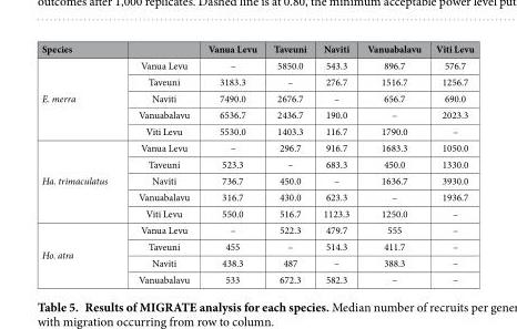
<table><thead><tr><td>Species</td><td></td><td>Vanua Levu</td><td>Taveuni</td><td>Naviti</td><td>Vanuabalavu</td><td>Viti Levu</td></tr></thead><tbody><tr><td rowspan="5">E. merra</td><td>Vanua Levu</td><td>–</td><td>5850.0</td><td>543.3</td><td>896.7</td><td>576.7</td></tr><tr><td>Taveuni</td><td>3183.3</td><td>–</td><td>276.7</td><td>1516.7</td><td>1256.7</td></tr><tr><td>Naviti</td><td>7490.0</td><td>2676.7</td><td>–</td><td>656.7</td><td>690.0</td></tr><tr><td>Vanuabalavu</td><td>6536.7</td><td>2436.7</td><td>190.0</td><td>–</td><td>2023.3</td></tr><tr><td>Viti Levu</td><td>5530.0</td><td>1403.3</td><td>116.7</td><td>1790.0</td><td>–</td></tr><tr><td rowspan="5">Ha. trimaculatus</td><td>Vanua Levu</td><td>–</td><td>296.7</td><td>916.7</td><td>1683.3</td><td>1050.0</td></tr><tr><td>Taveuni</td><td>523.3</td><td>–</td><td>683.3</td><td>450.0</td><td>1330.0</td></tr><tr><td>Naviti</td><td>736.7</td><td>450.0</td><td>–</td><td>1636.7</td><td>3930.0</td></tr><tr><td>Vanuabalavu</td><td>316.7</td><td>430.0</td><td>623.3</td><td>–</td><td>1936.7</td></tr><tr><td>Viti Levu</td><td>550.0</td><td>516.7</td><td>1123.3</td><td>1250.0</td><td>–</td></tr><tr><td rowspan="4">Ho. atra</td><td>Vanua Levu</td><td>–</td><td>522.3</td><td>479.7</td><td>555</td><td>–</td></tr><tr><td>Taveuni</td><td>455</td><td>–</td><td>514.3</td><td>411.7</td><td>–</td></tr><tr><td>Naviti</td><td>438.3</td><td>487</td><td>–</td><td>388.3</td><td>–</td></tr><tr><td>Vanuabalavu</td><td>533</td><td>672.3</td><td>582.3</td><td>–</td><td>–</td></tr></tbody></table>